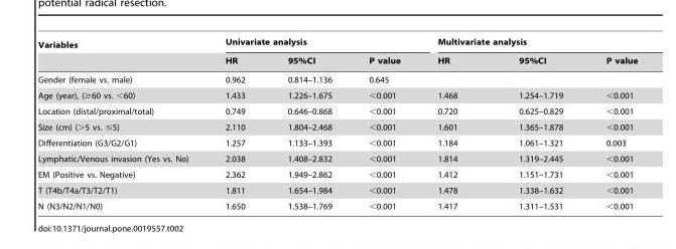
<table><thead><tr><td rowspan="2">Variables</td><td colspan="3">Univariate analysis</td><td colspan="3">Multivariate analysis</td></tr><tr><td>HR</td><td>95%CI</td><td>P value</td><td>HR</td><td>95%CI</td><td>P value</td></tr></thead><tbody><tr><td>Gender (female vs. male)</td><td>0.962</td><td>0.814–1.136</td><td>0.645</td><td></td><td></td><td></td></tr><tr><td>Age (year), (≥60 vs. &lt;60)</td><td>1.433</td><td>1.226–1.675</td><td>&lt;0.001</td><td>1.468</td><td>1.254–1.719</td><td>&lt;0.001</td></tr><tr><td>Location (distal/proximal/total)</td><td>0.749</td><td>0.646–0.868</td><td>&lt;0.001</td><td>0.720</td><td>0.625–0.829</td><td>&lt;0.001</td></tr><tr><td>Size (cm) (&gt;5 vs. ≤5)</td><td>2.110</td><td>1.804–2.468</td><td>&lt;0.001</td><td>1.601</td><td>1.365–1.878</td><td>&lt;0.001</td></tr><tr><td>Differentiation (G3/G2/G1)</td><td>1.257</td><td>1.133–1.393</td><td>&lt;0.001</td><td>1.184</td><td>1.061–1.321</td><td>0.003</td></tr><tr><td>Lymphatic/Venous invasion (Yes vs. No)</td><td>2.038</td><td>1.408–2.832</td><td>&lt;0.001</td><td>1.814</td><td>1.319–2.445</td><td>&lt;0.001</td></tr><tr><td>EM (Positive vs. Negative)</td><td>2.362</td><td>1.949–2.862</td><td>&lt;0.001</td><td>1.412</td><td>1.151–1.731</td><td>&lt;0.001</td></tr><tr><td>T (T4b/T4a/T3/T2/T1)</td><td>1.811</td><td>1.654–1.984</td><td>&lt;0.001</td><td>1.478</td><td>1.338–1.632</td><td>&lt;0.001</td></tr><tr><td>N (N3/N2/N1/N0)</td><td>1.650</td><td>1.538–1.769</td><td>&lt;0.001</td><td>1.417</td><td>1.311–1.531</td><td>&lt;0.001</td></tr></tbody></table>